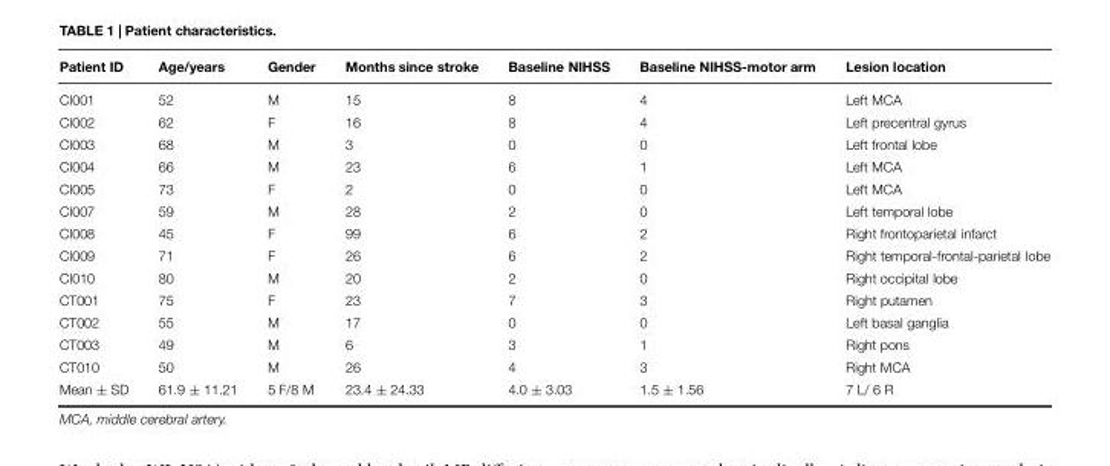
<table><thead><tr><td>Patient ID</td><td>Age/years</td><td>Gender</td><td>Months since stroke</td><td>Baseline NIHSS</td><td>Baseline NIHSS-motor arm</td><td>Lesion location</td></tr></thead><tbody><tr><td>CI001</td><td>52</td><td>M</td><td>15</td><td>8</td><td>4</td><td>Left MCA</td></tr><tr><td>CI002</td><td>62</td><td>F</td><td>16</td><td>8</td><td>4</td><td>Left precentral gyrus</td></tr><tr><td>CI003</td><td>68</td><td>M</td><td>3</td><td>0</td><td>0</td><td>Left frontal lobe</td></tr><tr><td>CI004</td><td>66</td><td>M</td><td>23</td><td>6</td><td>1</td><td>Left MCA</td></tr><tr><td>CI005</td><td>73</td><td>F</td><td>2</td><td>0</td><td>0</td><td>Left MCA</td></tr><tr><td>CI007</td><td>59</td><td>M</td><td>28</td><td>2</td><td>0</td><td>Left temporal lobe</td></tr><tr><td>CI008</td><td>45</td><td>F</td><td>99</td><td>6</td><td>2</td><td>Right frontoparietal infarct</td></tr><tr><td>CI009</td><td>71</td><td>F</td><td>26</td><td>6</td><td>2</td><td>Right temporal-frontal-parietal lobe</td></tr><tr><td>CI010</td><td>80</td><td>M</td><td>20</td><td>2</td><td>0</td><td>Right occipital lobe</td></tr><tr><td>CT001</td><td>75</td><td>F</td><td>23</td><td>7</td><td>3</td><td>Right putamen</td></tr><tr><td>CT002</td><td>55</td><td>M</td><td>17</td><td>0</td><td>0</td><td>Left basal ganglia</td></tr><tr><td>CT003</td><td>49</td><td>M</td><td>6</td><td>3</td><td>1</td><td>Right pons</td></tr><tr><td>CT010</td><td>50</td><td>M</td><td>26</td><td>4</td><td>3</td><td>Right MCA</td></tr><tr><td>Mean ± SD</td><td>61.9 ± 11.21</td><td>5 F/8 M</td><td>23.4 ± 24.33</td><td>4.0 ± 3.03</td><td>1.5 ± 1.56</td><td>7 L/ 6 R</td></tr></tbody></table>